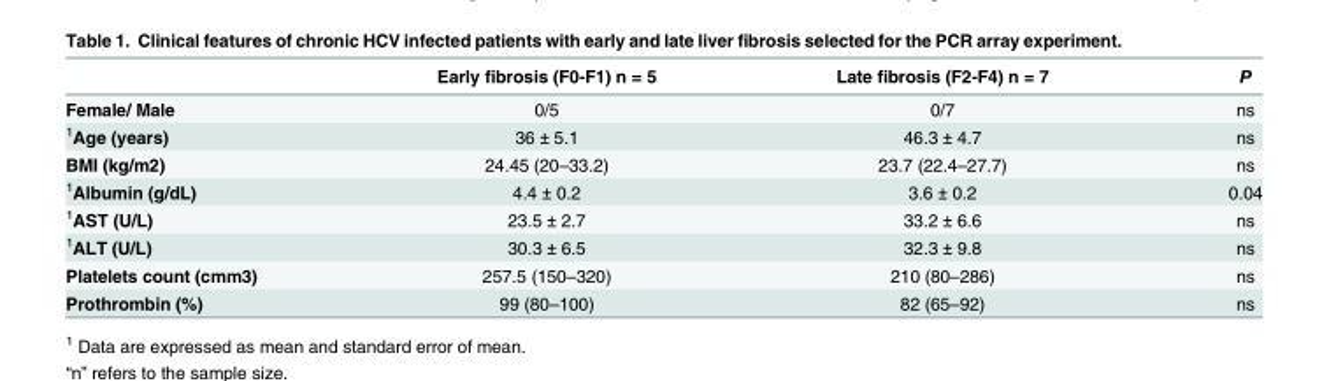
<table><thead><tr><td></td><td>Early fibrosis (F0-F1) n = 5</td><td>Late fibrosis (F2-F4) n = 7</td><td>P</td></tr></thead><tbody><tr><td>Female/ Male</td><td>0/5</td><td>0/7</td><td>ns</td></tr><tr><td><sup>1</sup>Age (years)</td><td>36 ± 5.1</td><td>46.3 ± 4.7</td><td>ns</td></tr><tr><td>BMI (kg/m2)</td><td>24.45 (20–33.2)</td><td>23.7 (22.4–27.7)</td><td>ns</td></tr><tr><td><sup>1</sup>Albumin (g/dL)</td><td>4.4 ± 0.2</td><td>3.6 ± 0.2</td><td>0.04</td></tr><tr><td><sup>1</sup>AST (U/L)</td><td>23.5 ± 2.7</td><td>33.2 ± 6.6</td><td>ns</td></tr><tr><td><sup>1</sup>ALT (U/L)</td><td>30.3 ± 6.5</td><td>32.3 ± 9.8</td><td>ns</td></tr><tr><td>Platelets count (cmm3)</td><td>257.5 (150–320)</td><td>210 (80–286)</td><td>ns</td></tr><tr><td>Prothrombin (%)</td><td>99 (80–100)</td><td>82 (65–92)</td><td>ns</td></tr></tbody></table>